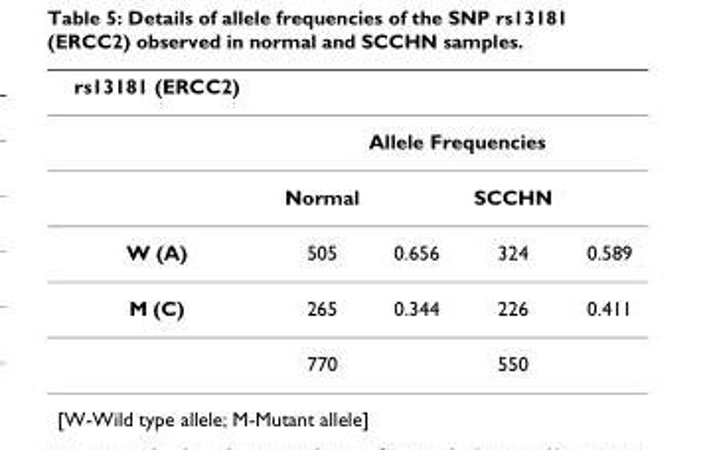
<table><thead><tr><td>rs13181 (ERCC2)</td><td></td><td></td><td></td><td></td></tr></thead><tbody><tr><td></td><td colspan="4">Allele Frequencies</td></tr><tr><td></td><td>Normal</td><td></td><td>SCCHN</td><td></td></tr><tr><td>W (A)</td><td>505</td><td>0.656</td><td>324</td><td>0.589</td></tr><tr><td rowspan="2">M (C)</td><td>265</td><td>0.344</td><td>226</td><td>0.411</td></tr><tr><td>770</td><td></td><td>550</td><td></td></tr></tbody></table>